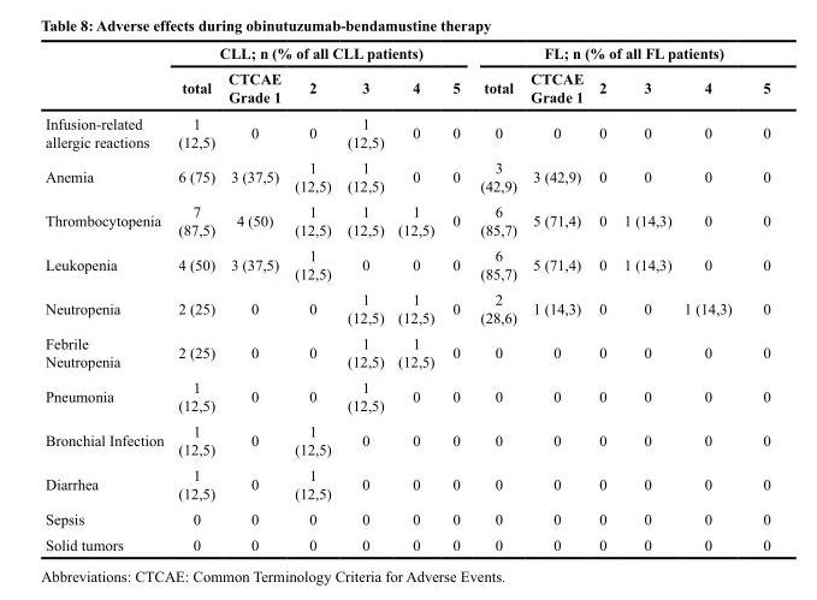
<table><thead><tr><td rowspan="2"></td><td colspan="6">CLL; n (% of all CLL patients)</td><td colspan="6">FL; n (% of all FL patients)</td></tr><tr><td>total</td><td>CTCAE Grade 1</td><td>2</td><td>3</td><td>4</td><td>5</td><td>total</td><td>CTCAE Grade 1</td><td>2</td><td>3</td><td>4</td><td>5</td></tr></thead><tbody><tr><td>Infusion-related allergic reactions</td><td>1 (12,5)</td><td>0</td><td>0</td><td>1 (12,5)</td><td>0</td><td>0</td><td>0</td><td>0</td><td>0</td><td>0</td><td>0</td><td>0</td></tr><tr><td>Anemia</td><td>6 (75)</td><td>3 (37,5)</td><td>1 (12,5)</td><td>1 (12,5)</td><td>0</td><td>0</td><td>3 (42,9)</td><td>3 (42,9)</td><td>0</td><td>0</td><td>0</td><td>0</td></tr><tr><td>Thrombocytopenia</td><td>7 (87,5)</td><td>4 (50)</td><td>1 (12,5)</td><td>1 (12,5)</td><td>1 (12,5)</td><td>0</td><td>6 (85,7)</td><td>5 (71,4)</td><td>0</td><td>1 (14,3)</td><td>0</td><td>0</td></tr><tr><td>Leukopenia</td><td>4 (50)</td><td>3 (37,5)</td><td>1 (12,5)</td><td>0</td><td>0</td><td>0</td><td>6 (85,7)</td><td>5 (71,4)</td><td>0</td><td>1 (14,3)</td><td>0</td><td>0</td></tr><tr><td>Neutropenia</td><td>2 (25)</td><td>0</td><td>0</td><td>1 (12,5)</td><td>1 (12,5)</td><td>0</td><td>2 (28,6)</td><td>1 (14,3)</td><td>0</td><td>0</td><td>1 (14,3)</td><td>0</td></tr><tr><td>Febrile Neutropenia</td><td>2 (25)</td><td>0</td><td>0</td><td>1 (12,5)</td><td>1 (12,5)</td><td>0</td><td>0</td><td>0</td><td>0</td><td>0</td><td>0</td><td>0</td></tr><tr><td>Pneumonia</td><td>1 (12,5)</td><td>0</td><td>0</td><td>1 (12,5)</td><td>0</td><td>0</td><td>0</td><td>0</td><td>0</td><td>0</td><td>0</td><td>0</td></tr><tr><td>Bronchial Infection</td><td>1 (12,5)</td><td>0</td><td>1 (12,5)</td><td>0</td><td>0</td><td>0</td><td>0</td><td>0</td><td>0</td><td>0</td><td>0</td><td>0</td></tr><tr><td>Diarrhea</td><td>1 (12,5)</td><td>0</td><td>1 (12,5)</td><td>0</td><td>0</td><td>0</td><td>0</td><td>0</td><td>0</td><td>0</td><td>0</td><td>0</td></tr><tr><td>Sepsis</td><td>0</td><td>0</td><td>0</td><td>0</td><td>0</td><td>0</td><td>0</td><td>0</td><td>0</td><td>0</td><td>0</td><td>0</td></tr><tr><td>Solid tumors</td><td>0</td><td>0</td><td>0</td><td>0</td><td>0</td><td>0</td><td>0</td><td>0</td><td>0</td><td>0</td><td>0</td><td>0</td></tr></tbody></table>